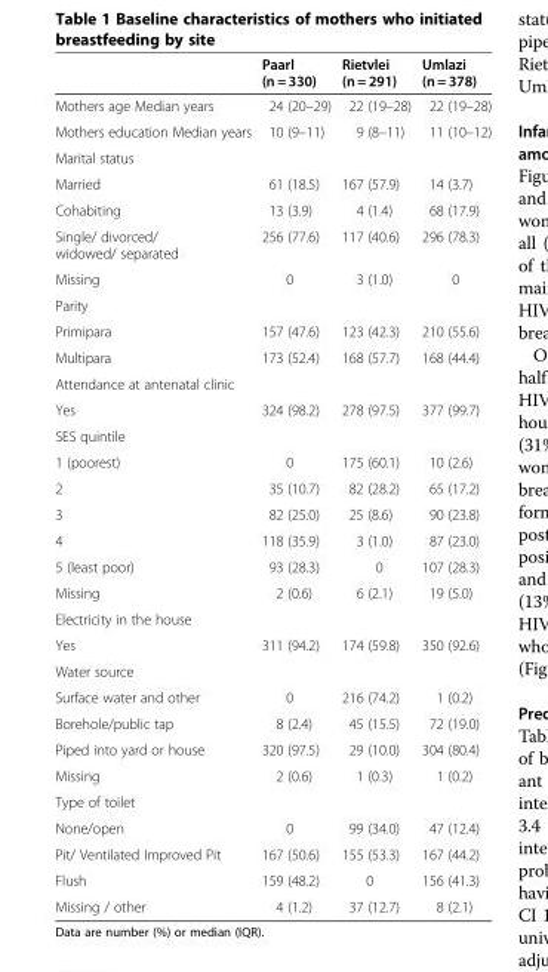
<table><thead><tr><td></td><td>Paarl (n = 330)</td><td>Rietvlei (n = 291)</td><td>Umlazi (n = 378)</td></tr></thead><tbody><tr><td>Mothers age Median years</td><td>24 (20–29)</td><td>22 (19–28)</td><td>22 (19–28)</td></tr><tr><td>Mothers education Median years</td><td>10 (9–11)</td><td>9 (8–11)</td><td>11 (10–12)</td></tr><tr><td colspan="4">Marital status</td></tr><tr><td>Married</td><td>61 (18.5)</td><td>167 (57.9)</td><td>14 (3.7)</td></tr><tr><td>Cohabiting</td><td>13 (3.9)</td><td>4 (1.4)</td><td>68 (17.9)</td></tr><tr><td>Single/ divorced/ widowed/ separated</td><td>256 (77.6)</td><td>117 (40.6)</td><td>296 (78.3)</td></tr><tr><td>Missing</td><td>0</td><td>3 (1.0)</td><td>0</td></tr><tr><td colspan="4">Parity</td></tr><tr><td>Primipara</td><td>157 (47.6)</td><td>123 (42.3)</td><td>210 (55.6)</td></tr><tr><td>Multipara</td><td>173 (52.4)</td><td>168 (57.7)</td><td>168 (44.4)</td></tr><tr><td colspan="4">Attendance at antenatal clinic</td></tr><tr><td>Yes</td><td>324 (98.2)</td><td>278 (97.5)</td><td>377 (99.7)</td></tr><tr><td colspan="4">SES quintile</td></tr><tr><td>1 (poorest)</td><td>0</td><td>175 (60.1)</td><td>10 (2.6)</td></tr><tr><td>2</td><td>35 (10.7)</td><td>82 (28.2)</td><td>65 (17.2)</td></tr><tr><td>3</td><td>82 (25.0)</td><td>25 (8.6)</td><td>90 (23.8)</td></tr><tr><td>4</td><td>118 (35.9)</td><td>3 (1.0)</td><td>87 (23.0)</td></tr><tr><td>5 (least poor)</td><td>93 (28.3)</td><td>0</td><td>107 (28.3)</td></tr><tr><td>Missing</td><td>2 (0.6)</td><td>6 (2.1)</td><td>19 (5.0)</td></tr><tr><td colspan="4">Electricity in the house</td></tr><tr><td>Yes</td><td>311 (94.2)</td><td>174 (59.8)</td><td>350 (92.6)</td></tr><tr><td colspan="4">Water source</td></tr><tr><td>Surface water and other</td><td>0</td><td>216 (74.2)</td><td>1 (0.2)</td></tr><tr><td>Borehole/public tap</td><td>8 (2.4)</td><td>45 (15.5)</td><td>72 (19.0)</td></tr><tr><td>Piped into yard or house</td><td>320 (97.5)</td><td>29 (10.0)</td><td>304 (80.4)</td></tr><tr><td>Missing</td><td>2 (0.6)</td><td>1 (0.3)</td><td>1 (0.2)</td></tr><tr><td colspan="4">Type of toilet</td></tr><tr><td>None/open</td><td>0</td><td>99 (34.0)</td><td>47 (12.4)</td></tr><tr><td>Pit/ Ventilated Improved Pit</td><td>167 (50.6)</td><td>155 (53.3)</td><td>167 (44.2)</td></tr><tr><td>Flush</td><td>159 (48.2)</td><td>0</td><td>156 (41.3)</td></tr><tr><td>Missing / other</td><td>4 (1.2)</td><td>37 (12.7)</td><td>8 (2.1)</td></tr></tbody></table>